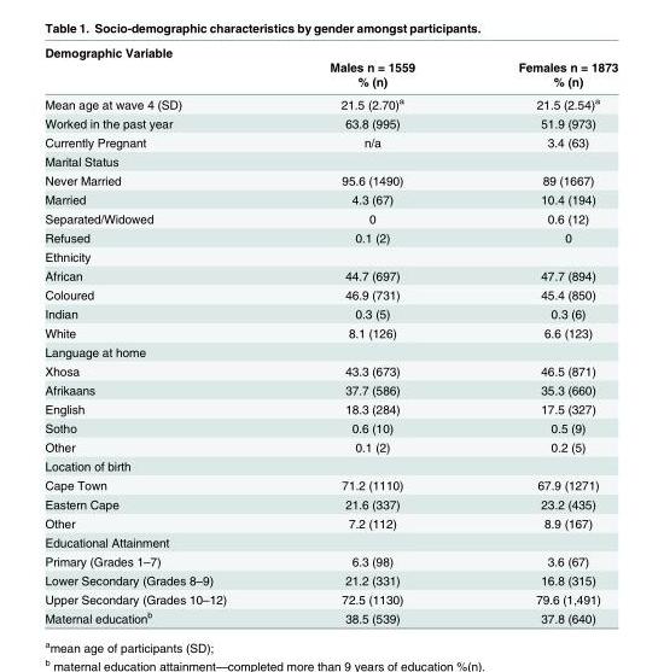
<table><thead><tr><td rowspan="3">Demographic Variable</td><td rowspan="3">Males n = 1559 % (n)</td><td rowspan="3">Females n = 1873 % (n)</td></tr><tr></tr><tr></tr></thead><tbody><tr><td>Mean age at wave 4 (SD)</td><td>21.5 (2.70)<sup>a</sup></td><td>21.5 (2.54)<sup>a</sup></td></tr><tr><td>Worked in the past year</td><td>63.8 (995)</td><td>51.9 (973)</td></tr><tr><td>Currently Pregnant</td><td>n/a</td><td>3.4 (63)</td></tr><tr><td colspan="3">Marital Status</td></tr><tr><td>Never Married</td><td>95.6 (1490)</td><td>89 (1667)</td></tr><tr><td>Married</td><td>4.3 (67)</td><td>10.4 (194)</td></tr><tr><td>Separated/Widowed</td><td>0</td><td>0.6 (12)</td></tr><tr><td>Refused</td><td>0.1 (2)</td><td>0</td></tr><tr><td colspan="3">Ethnicity</td></tr><tr><td>African</td><td>44.7 (697)</td><td>47.7 (894)</td></tr><tr><td>Coloured</td><td>46.9 (731)</td><td>45.4 (850)</td></tr><tr><td>Indian</td><td>0.3 (5)</td><td>0.3 (6)</td></tr><tr><td>White</td><td>8.1 (126)</td><td>6.6 (123)</td></tr><tr><td colspan="3">Language at home</td></tr><tr><td>Xhosa</td><td>43.3 (673)</td><td>46.5 (871)</td></tr><tr><td>Afrikaans</td><td>37.7 (586)</td><td>35.3 (660)</td></tr><tr><td>English</td><td>18.3 (284)</td><td>17.5 (327)</td></tr><tr><td>Sotho</td><td>0.6 (10)</td><td>0.5 (9)</td></tr><tr><td>Other</td><td>0.1 (2)</td><td>0.2 (5)</td></tr><tr><td colspan="3">Location of birth</td></tr><tr><td>Cape Town</td><td>71.2 (1110)</td><td>67.9 (1271)</td></tr><tr><td>Eastern Cape</td><td>21.6 (337)</td><td>23.2 (435)</td></tr><tr><td>Other</td><td>7.2 (112)</td><td>8.9 (167)</td></tr><tr><td colspan="3">Educational Attainment</td></tr><tr><td>Primary (Grades 1–7)</td><td>6.3 (98)</td><td>3.6 (67)</td></tr><tr><td>Lower Secondary (Grades 8–9)</td><td>21.2 (331)</td><td>16.8 (315)</td></tr><tr><td>Upper Secondary (Grades 10–12)</td><td>72.5 (1130)</td><td>79.6 (1,491)</td></tr><tr><td>Maternal education<sup>b</sup></td><td>38.5 (539)</td><td>37.8 (640)</td></tr></tbody></table>